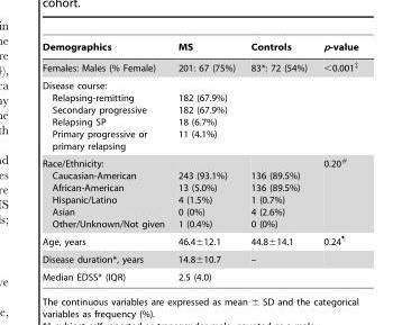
<table><thead><tr><td>Demographics</td><td>MS</td><td>Controls</td><td>p-value</td></tr></thead><tbody><tr><td>Females: Males (% Female)</td><td>201: 67 (75%)</td><td>83*: 72 (54%)</td><td>&lt;0.001‡</td></tr><tr><td>Disease course: Relapsing-remitting Secondary progressive Relapsing SP Primary progressive or primary relapsing</td><td>182 (67.9%) 182 (67.9%) 18 (6.7%) 11 (4.1%)</td><td></td><td></td></tr><tr><td>Race/Ethnicity: Caucasian-American African-American Hispanic/Latino Asian Other/Unknown/Not given</td><td>243 (93.1%) 13 (5.0%) 4 (1.5%) 0 (0%) 1 (0.4%)</td><td>136 (89.5%) 136 (89.5%) 1 (0.7%) 4 (2.6%) 0 (0%)</td><td>0.20#</td></tr><tr><td>Age, years</td><td>46.4±12.1</td><td>44.8±14.1</td><td>0.24¶</td></tr><tr><td>Disease duration*, years</td><td>14.8±10.7</td><td>–</td><td></td></tr><tr><td>Median EDSS* (IQR)</td><td>2.5 (4.0)</td><td></td><td></td></tr></tbody></table>